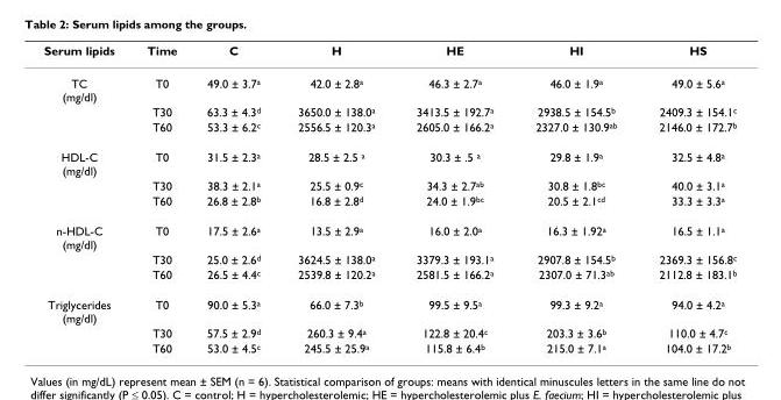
<table><thead><tr><td>Serum lipids</td><td>Time</td><td>C</td><td>H</td><td>HE</td><td>HI</td><td>HS</td></tr></thead><tbody><tr><td rowspan="3">TC (mg/dl)</td><td>T0</td><td>49.0 ± 3.7<sup>a</sup></td><td>42.0 ± 2.8<sup>a</sup></td><td>46.3 ± 2.7<sup>a</sup></td><td>46.0 ± 1.9<sup>a</sup></td><td>49.0 ± 5.6<sup>a</sup></td></tr><tr><td>T30</td><td>63.3 ± 4.3<sup>d</sup></td><td>3650.0 ± 138.0<sup>a</sup></td><td>3413.5 ± 192.7<sup>a</sup></td><td>2938.5 ± 154.5<sup>b</sup></td><td>2409.3 ± 154.1<sup>c</sup></td></tr><tr><td>T60</td><td>53.3 ± 6.2<sup>c</sup></td><td>2556.5 ± 120.3<sup>a</sup></td><td>2605.0 ± 166.2<sup>a</sup></td><td>2327.0 ± 130.9<sup>ab</sup></td><td>2146.0 ± 172.7<sup>b</sup></td></tr><tr><td rowspan="3">HDL-C (mg/dl)</td><td>T0</td><td>31.5 ± 2.3<sup>a</sup></td><td>28.5 ± 2.5 <sup>a</sup></td><td>30.3 ± .5 <sup>a</sup></td><td>29.8 ± 1.9<sup>a</sup></td><td>32.5 ± 4.8<sup>a</sup></td></tr><tr><td>T30</td><td>38.3 ± 2.1<sup>a</sup></td><td>25.5 ± 0.9<sup>c</sup></td><td>34.3 ± 2.7<sup>ab</sup></td><td>30.8 ± 1.8<sup>bc</sup></td><td>40.0 ± 3.1<sup>a</sup></td></tr><tr><td>T60</td><td>26.8 ± 2.8<sup>b</sup></td><td>16.8 ± 2.8<sup>d</sup></td><td>24.0 ± 1.9<sup>bc</sup></td><td>20.5 ± 2.1<sup>cd</sup></td><td>33.3 ± 3.3<sup>a</sup></td></tr><tr><td rowspan="3">n-HDL-C (mg/dl)</td><td>T0</td><td>17.5 ± 2.6<sup>a</sup></td><td>13.5 ± 2.9<sup>a</sup></td><td>16.0 ± 2.0<sup>a</sup></td><td>16.3 ± 1.92<sup>a</sup></td><td>16.5 ± 1.1<sup>a</sup></td></tr><tr><td>T30</td><td>25.0 ± 2.6<sup>d</sup></td><td>3624.5 ± 138.0<sup>a</sup></td><td>3379.3 ± 193.1<sup>a</sup></td><td>2907.8 ± 154.5<sup>b</sup></td><td>2369.3 ± 156.8<sup>c</sup></td></tr><tr><td>T60</td><td>26.5 ± 4.4<sup>c</sup></td><td>2539.8 ± 120.2<sup>a</sup></td><td>2581.5 ± 166.2<sup>a</sup></td><td>2307.0 ± 71.3<sup>ab</sup></td><td>2112.8 ± 183.1<sup>b</sup></td></tr><tr><td rowspan="3">Triglycerides (mg/dl)</td><td>T0</td><td>90.0 ± 5.3<sup>a</sup></td><td>66.0 ± 7.3<sup>b</sup></td><td>99.5 ± 9.5<sup>a</sup></td><td>99.3 ± 9.2<sup>a</sup></td><td>94.0 ± 4.2<sup>a</sup></td></tr><tr><td>T30</td><td>57.5 ± 2.9<sup>d</sup></td><td>260.3 ± 9.4<sup>a</sup></td><td>122.8 ± 20.4<sup>c</sup></td><td>203.3 ± 3.6<sup>b</sup></td><td>110.0 ± 4.7<sup>c</sup></td></tr><tr><td>T60</td><td>53.0 ± 4.5<sup>c</sup></td><td>245.5 ± 25.9<sup>a</sup></td><td>115.8 ± 6.4<sup>b</sup></td><td>215.0 ± 7.1<sup>a</sup></td><td>104.0 ± 17.2<sup>b</sup></td></tr></tbody></table>